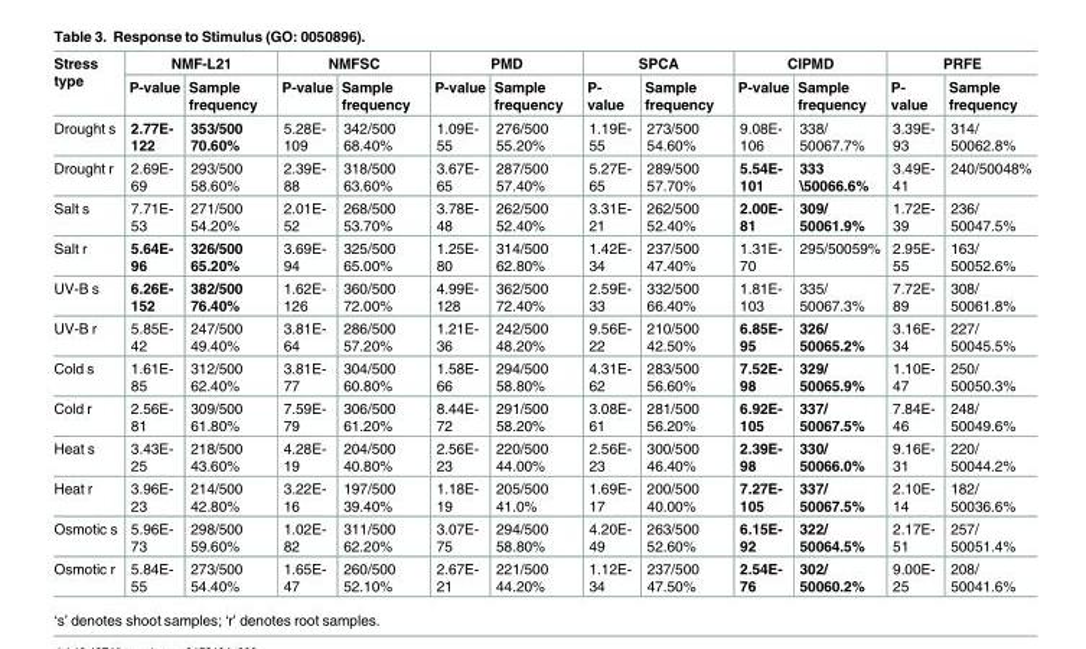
<table><thead><tr><td rowspan="2">Stress type</td><td colspan="2">NMF-L21</td><td colspan="2">NMFSC</td><td colspan="2">PMD</td><td colspan="2">SPCA</td><td colspan="2">CIPMD</td><td colspan="2">PRFE</td></tr><tr><td>P-value</td><td>Sample frequency</td><td>P-value</td><td>Sample frequency</td><td>P-value</td><td>Sample frequency</td><td>P- value</td><td>Sample frequency</td><td>P-value</td><td>Sample frequency</td><td>P- value</td><td>Sample frequency</td></tr></thead><tbody><tr><td>Drought s</td><td>2.77E- 122</td><td>353/500 70.60%</td><td>5.28E- 109</td><td>342/500 68.40%</td><td>1.09E- 55</td><td>276/500 55.20%</td><td>1.19E- 55</td><td>273/500 54.60%</td><td>9.08E- 106</td><td>338/ 50067.7%</td><td>3.39E- 93</td><td>314/ 50062.8%</td></tr><tr><td>Drought r</td><td>2.69E- 69</td><td>293/500 58.60%</td><td>2.39E- 88</td><td>318/500 63.60%</td><td>3.67E- 65</td><td>287/500 57.40%</td><td>5.27E- 65</td><td>289/500 57.70%</td><td>5.54E- 101</td><td>333 \50066.6%</td><td>3.49E- 41</td><td>240/50048%</td></tr><tr><td>Salt s</td><td>7.71E- 53</td><td>271/500 54.20%</td><td>2.01E- 52</td><td>268/500 53.70%</td><td>3.78E- 48</td><td>262/500 52.40%</td><td>3.31E- 21</td><td>262/500 52.40%</td><td>2.00E- 81</td><td>309/ 50061.9%</td><td>1.72E- 39</td><td>236/ 50047.5%</td></tr><tr><td>Salt r</td><td>5.64E- 96</td><td>326/500 65.20%</td><td>3.69E- 94</td><td>325/500 65.00%</td><td>1.25E- 80</td><td>314/500 62.80%</td><td>1.42E- 34</td><td>237/500 47.40%</td><td>1.31E- 70</td><td>295/50059%</td><td>2.95E- 55</td><td>163/ 50052.6%</td></tr><tr><td>UV-B s</td><td>6.26E- 152</td><td>382/500 76.40%</td><td>1.62E- 126</td><td>360/500 72.00%</td><td>4.99E- 128</td><td>362/500 72.40%</td><td>2.59E- 33</td><td>332/500 66.40%</td><td>1.81E- 103</td><td>335/ 50067.3%</td><td>7.72E- 89</td><td>308/ 50061.8%</td></tr><tr><td>UV-B r</td><td>5.85E- 42</td><td>247/500 49.40%</td><td>3.81E- 64</td><td>286/500 57.20%</td><td>1.21E- 36</td><td>242/500 48.20%</td><td>9.56E- 22</td><td>210/500 42.50%</td><td>6.85E- 95</td><td>326/ 50065.2%</td><td>3.16E- 34</td><td>227/ 50045.5%</td></tr><tr><td>Cold s</td><td>1.61E- 85</td><td>312/500 62.40%</td><td>3.81E- 77</td><td>304/500 60.80%</td><td>1.58E- 66</td><td>294/500 58.80%</td><td>4.31E- 62</td><td>283/500 56.60%</td><td>7.52E- 98</td><td>329/ 50065.9%</td><td>1.10E- 47</td><td>250/ 50050.3%</td></tr><tr><td>Cold r</td><td>2.56E- 81</td><td>309/500 61.80%</td><td>7.59E- 79</td><td>306/500 61.20%</td><td>8.44E- 72</td><td>291/500 58.20%</td><td>3.08E- 61</td><td>281/500 56.20%</td><td>6.92E- 105</td><td>337/ 50067.5%</td><td>7.84E- 46</td><td>248/ 50049.6%</td></tr><tr><td>Heat s</td><td>3.43E- 25</td><td>218/500 43.60%</td><td>4.28E- 19</td><td>204/500 40.80%</td><td>2.56E- 23</td><td>220/500 44.00%</td><td>2.56E- 23</td><td>300/500 46.40%</td><td>2.39E- 98</td><td>330/ 50066.0%</td><td>9.16E- 31</td><td>220/ 50044.2%</td></tr><tr><td>Heat r</td><td>3.96E- 23</td><td>214/500 42.80%</td><td>3.22E- 16</td><td>197/500 39.40%</td><td>1.18E- 19</td><td>205/500 41.0%</td><td>1.69E- 17</td><td>200/500 40.00%</td><td>7.27E- 105</td><td>337/ 50067.5%</td><td>2.10E- 14</td><td>182/ 50036.6%</td></tr><tr><td>Osmotic s</td><td>5.96E- 73</td><td>298/500 59.60%</td><td>1.02E- 82</td><td>311/500 62.20%</td><td>3.07E- 75</td><td>294/500 58.80%</td><td>4.20E- 49</td><td>263/500 52.60%</td><td>6.15E- 92</td><td>322/ 50064.5%</td><td>2.17E- 51</td><td>257/ 50051.4%</td></tr><tr><td>Osmotic r</td><td>5.84E- 55</td><td>273/500 54.40%</td><td>1.65E- 47</td><td>260/500 52.10%</td><td>2.67E- 21</td><td>221/500 44.20%</td><td>1.12E- 34</td><td>237/500 47.50%</td><td>2.54E- 76</td><td>302/ 50060.2%</td><td>9.00E- 25</td><td>208/ 50041.6%</td></tr></tbody></table>